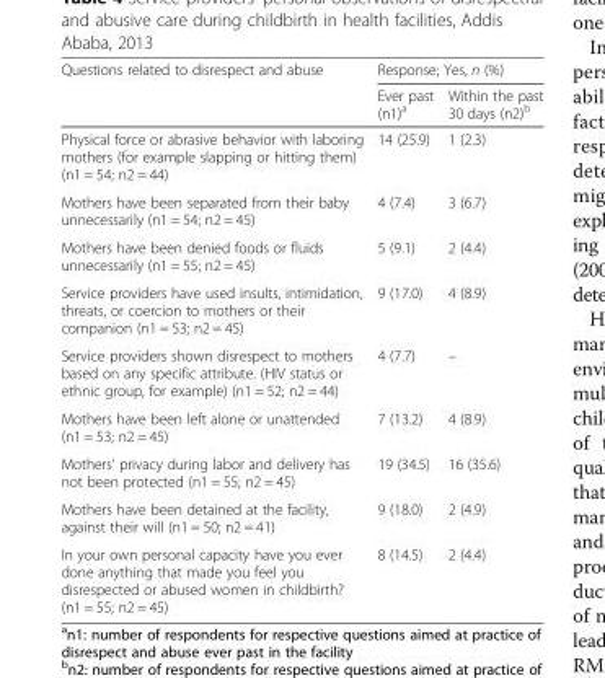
<table><thead><tr><td rowspan="2">Questions related to disrespect and abuse</td><td colspan="2">Response; Yes, n (%)</td></tr><tr><td>Ever past (n1)<sup>a</sup></td><td>Within the past 30 days (n2)<sup>b</sup></td></tr></thead><tbody><tr><td>Physical force or abrasive behavior with laboring mothers (for example slapping or hitting them) (n1 = 54; n2 = 44)</td><td>14 (25.9)</td><td>1 (2.3)</td></tr><tr><td>Mothers have been separated from their baby unnecessarily (n1 = 54; n2 = 45)</td><td>4 (7.4)</td><td>3 (6.7)</td></tr><tr><td>Mothers have been denied foods or fluids unnecessarily (n1 = 55; n2 = 45)</td><td>5 (9.1)</td><td>2 (4.4)</td></tr><tr><td>Service providers have used insults, intimidation, threats, or coercion to mothers or their companion (n1 = 53; n2 = 45)</td><td>9 (17.0)</td><td>4 (8.9)</td></tr><tr><td>Service providers shown disrespect to mothers based on any specific attribute. (HIV status or ethnic group, for example) (n1 = 52; n2 = 44)</td><td>4 (7.7)</td><td>–</td></tr><tr><td>Mothers have been left alone or unattended (n1 = 53; n2 = 45)</td><td>7 (13.2)</td><td>4 (8.9)</td></tr><tr><td>Mothers’ privacy during labor and delivery has not been protected (n1 = 55; n2 = 45)</td><td>19 (34.5)</td><td>16 (35.6)</td></tr><tr><td>Mothers have been detained at the facility, against their will (n1 = 50; n2 = 41)</td><td>9 (18.0)</td><td>2 (4.9)</td></tr><tr><td>In your own personal capacity have you ever done anything that made you feel you disrespected or abused women in childbirth? (n1 = 55; n2 = 45)</td><td>8 (14.5)</td><td>2 (4.4)</td></tr></tbody></table>